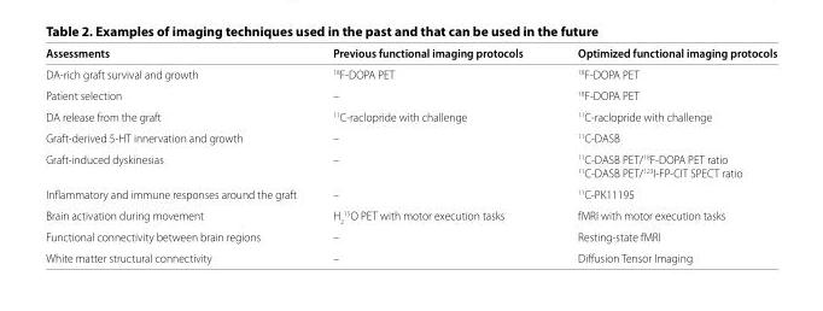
<table><thead><tr><td>Assessments</td><td>Previous functional imaging protocols</td><td>Optimized functional imaging protocols</td></tr></thead><tbody><tr><td>DA-rich graft survival and growth</td><td><sup>18</sup>F-DOPA PET</td><td><sup>18</sup>F-DOPA PET</td></tr><tr><td>Patient selection</td><td>–</td><td><sup>18</sup>F-DOPA PET</td></tr><tr><td>DA release from the graft</td><td><sup>11</sup>C-raclopride with challenge</td><td><sup>11</sup>C-raclopride with challenge</td></tr><tr><td>Graft-derived 5-HT innervation and growth</td><td>–</td><td><sup>11</sup>C-DASB</td></tr><tr><td>Graft-induced dyskinesias</td><td>–</td><td><sup>11</sup>C-DASB PET/<sup>18</sup>F-DOPA PET ratio <sup>11</sup>C-DASB PET/<sup>123</sup>I-FP-CIT SPECT ratio</td></tr><tr><td>Inflammatory and immune responses around the graft</td><td>–</td><td><sup>11</sup>C-PK11195</td></tr><tr><td>Brain activation during movement</td><td>H<sub>2</sub> <sup>15</sup>O PET with motor execution tasks</td><td>fMRI with motor execution tasks</td></tr><tr><td>Functional connectivity between brain regions</td><td>–</td><td>Resting-state fMRI</td></tr><tr><td>White matter structural connectivity</td><td>–</td><td>Diffusion Tensor Imaging</td></tr></tbody></table>